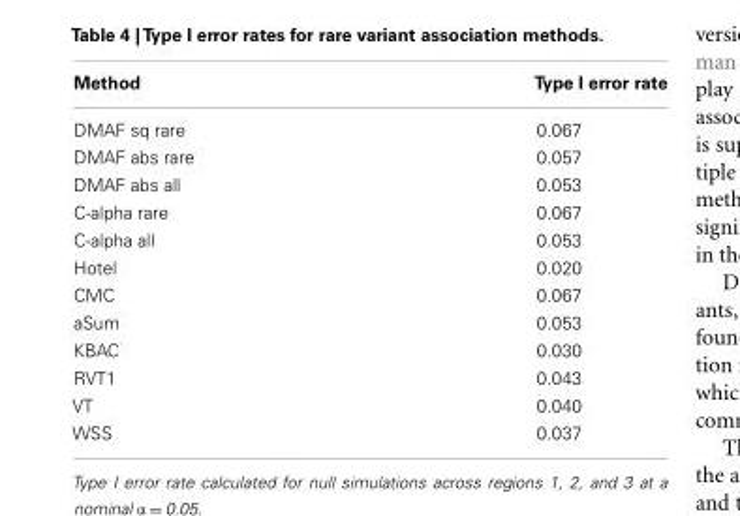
<table><thead><tr><td>Method</td><td>Type I error rate</td></tr></thead><tbody><tr><td>DMAF sq rare</td><td>0.067</td></tr><tr><td>DMAF abs rare</td><td>0.057</td></tr><tr><td>DMAF abs all</td><td>0.053</td></tr><tr><td>C-alpha rare</td><td>0.067</td></tr><tr><td>C-alpha all</td><td>0.053</td></tr><tr><td>Hotel</td><td>0.020</td></tr><tr><td>CMC</td><td>0.067</td></tr><tr><td>aSum</td><td>0.053</td></tr><tr><td>KBAC</td><td>0.030</td></tr><tr><td>RVT1</td><td>0.043</td></tr><tr><td>VT</td><td>0.040</td></tr><tr><td>WSS</td><td>0.037</td></tr></tbody></table>